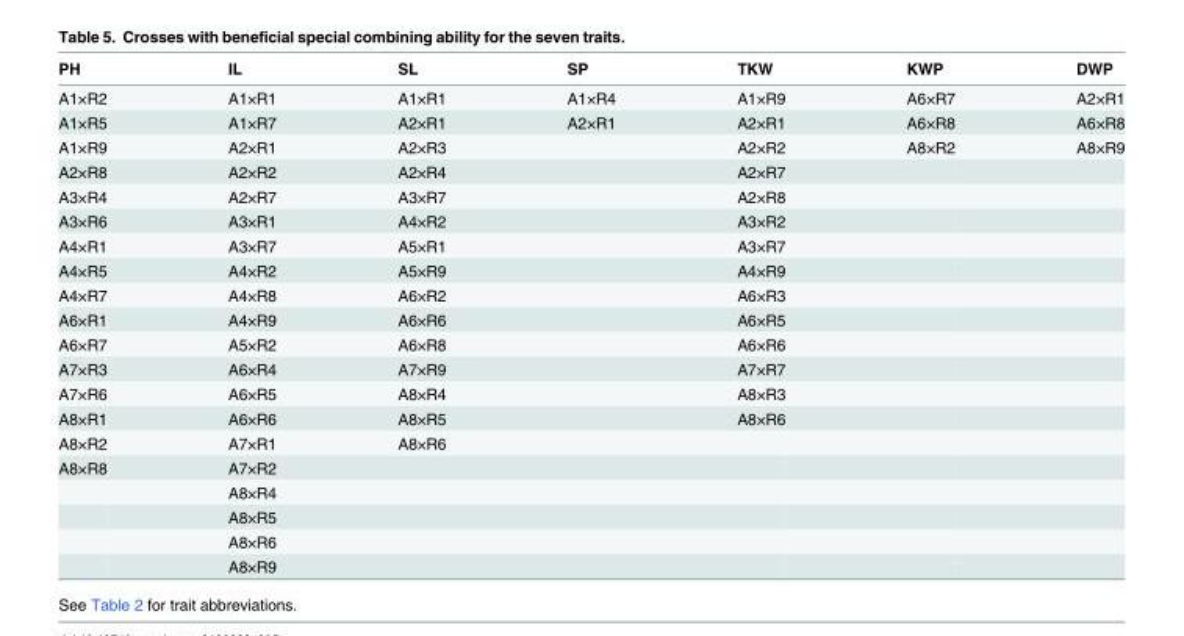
<table><thead><tr><td>PH</td><td>IL</td><td>SL</td><td>SP</td><td>TKW</td><td>KWP</td><td>DWP</td></tr></thead><tbody><tr><td>A1×R2</td><td>A1×R1</td><td>A1×R1</td><td>A1×R4</td><td>A1×R9</td><td>A6×R7</td><td>A2×R1</td></tr><tr><td>A1×R5</td><td>A1×R7</td><td>A2×R1</td><td>A2×R1</td><td>A2×R1</td><td>A6×R8</td><td>A6×R8</td></tr><tr><td>A1×R9</td><td>A2×R1</td><td>A2×R3</td><td></td><td>A2×R2</td><td>A8×R2</td><td>A8×R9</td></tr><tr><td>A2×R8</td><td>A2×R2</td><td>A2×R4</td><td></td><td>A2×R7</td><td></td><td></td></tr><tr><td>A3×R4</td><td>A2×R7</td><td>A3×R7</td><td></td><td>A2×R8</td><td></td><td></td></tr><tr><td>A3×R6</td><td>A3×R1</td><td>A4×R2</td><td></td><td>A3×R2</td><td></td><td></td></tr><tr><td>A4×R1</td><td>A3×R7</td><td>A5×R1</td><td></td><td>A3×R7</td><td></td><td></td></tr><tr><td>A4×R5</td><td>A4×R2</td><td>A5×R9</td><td></td><td>A4×R9</td><td></td><td></td></tr><tr><td>A4×R7</td><td>A4×R8</td><td>A6×R2</td><td></td><td>A6×R3</td><td></td><td></td></tr><tr><td>A6×R1</td><td>A4×R9</td><td>A6×R6</td><td></td><td>A6×R5</td><td></td><td></td></tr><tr><td>A6×R7</td><td>A5×R2</td><td>A6×R8</td><td></td><td>A6×R6</td><td></td><td></td></tr><tr><td>A7×R3</td><td>A6×R4</td><td>A7×R9</td><td></td><td>A7×R7</td><td></td><td></td></tr><tr><td>A7×R6</td><td>A6×R5</td><td>A8×R4</td><td></td><td>A8×R3</td><td></td><td></td></tr><tr><td>A8×R1</td><td>A6×R6</td><td>A8×R5</td><td></td><td>A8×R6</td><td></td><td></td></tr><tr><td>A8×R2</td><td>A7×R1</td><td>A8×R6</td><td></td><td></td><td></td><td></td></tr><tr><td rowspan="5">A8×R8</td><td>A7×R2</td><td></td><td></td><td></td><td></td><td></td></tr><tr><td>A8×R4</td><td></td><td></td><td></td><td></td><td></td></tr><tr><td>A8×R5</td><td></td><td></td><td></td><td></td><td></td></tr><tr><td>A8×R6</td><td></td><td></td><td></td><td></td><td></td></tr><tr><td>A8×R9</td><td></td><td></td><td></td><td></td><td></td></tr></tbody></table>